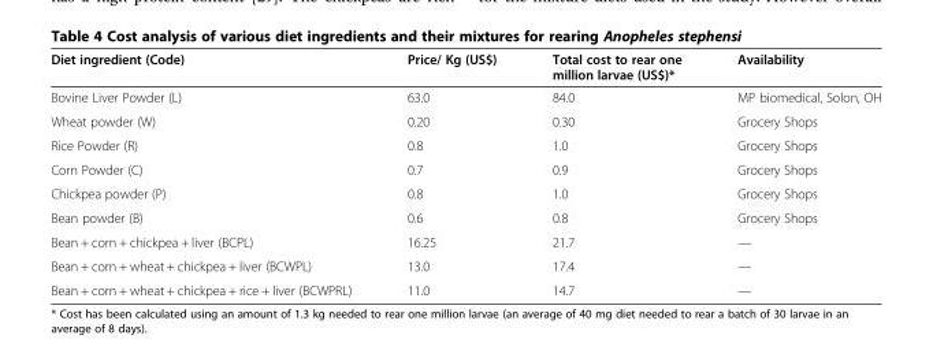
<table><thead><tr><td>Diet ingredient (Code)</td><td>Price/ Kg (US$)</td><td>Total cost to rear one million larvae (US$)*</td><td>Availability</td></tr></thead><tbody><tr><td>Bovine Liver Powder (L)</td><td>63.0</td><td>84.0</td><td>MP biomedical, Solon, OH</td></tr><tr><td>Wheat powder (W)</td><td>0.20</td><td>0.30</td><td>Grocery Shops</td></tr><tr><td>Rice Powder (R)</td><td>0.8</td><td>1.0</td><td>Grocery Shops</td></tr><tr><td>Corn Powder (C)</td><td>0.7</td><td>0.9</td><td>Grocery Shops</td></tr><tr><td>Chickpea powder (P)</td><td>0.8</td><td>1.0</td><td>Grocery Shops</td></tr><tr><td>Bean powder (B)</td><td>0.6</td><td>0.8</td><td>Grocery Shops</td></tr><tr><td>Bean + corn + chickpea + liver (BCPL)</td><td>16.25</td><td>21.7</td><td>—</td></tr><tr><td>Bean + corn + wheat + chickpea + liver (BCWPL)</td><td>13.0</td><td>17.4</td><td>—</td></tr><tr><td>Bean + corn + wheat + chickpea + rice + liver (BCWPRL)</td><td>11.0</td><td>14.7</td><td>—</td></tr></tbody></table>